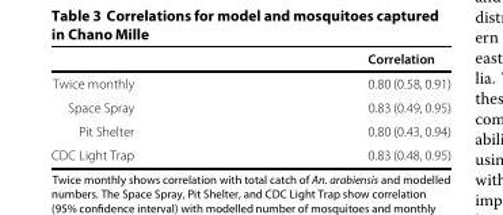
<table><thead><tr><td></td><td>Correlation</td></tr></thead><tbody><tr><td>Twice monthly</td><td>0.80 (0.58, 0.91)</td></tr><tr><td>Space Spray</td><td>0.83 (0.49, 0.95)</td></tr><tr><td>Pit Shelter</td><td>0.80 (0.43, 0.94)</td></tr><tr><td>CDC Light Trap</td><td>0.83 (0.48, 0.95)</td></tr></tbody></table>